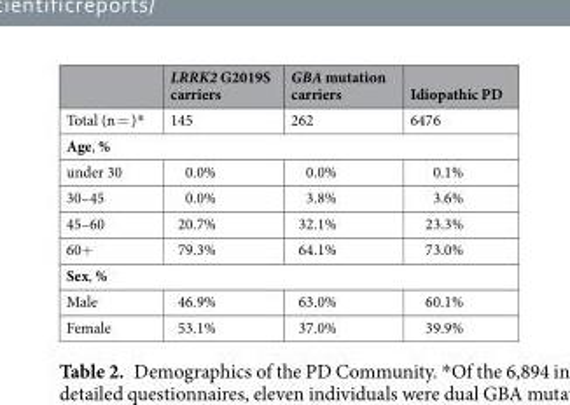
<table><thead><tr><td></td><td>LRRK2 G2019S carriers</td><td>GBA mutation carriers</td><td>Idiopathic PD</td></tr></thead><tbody><tr><td>Total (n = )*</td><td>145</td><td>262</td><td>6476</td></tr><tr><td colspan="4">Age, %</td></tr><tr><td>under 30</td><td>0.0%</td><td>0.0%</td><td>0.1%</td></tr><tr><td>30–45</td><td>0.0%</td><td>3.8%</td><td>3.6%</td></tr><tr><td>45–60</td><td>20.7%</td><td>32.1%</td><td>23.3%</td></tr><tr><td>60+</td><td>79.3%</td><td>64.1%</td><td>73.0%</td></tr><tr><td colspan="4">Sex, %</td></tr><tr><td>Male</td><td>46.9%</td><td>63.0%</td><td>60.1%</td></tr><tr><td>Female</td><td>53.1%</td><td>37.0%</td><td>39.9%</td></tr></tbody></table>